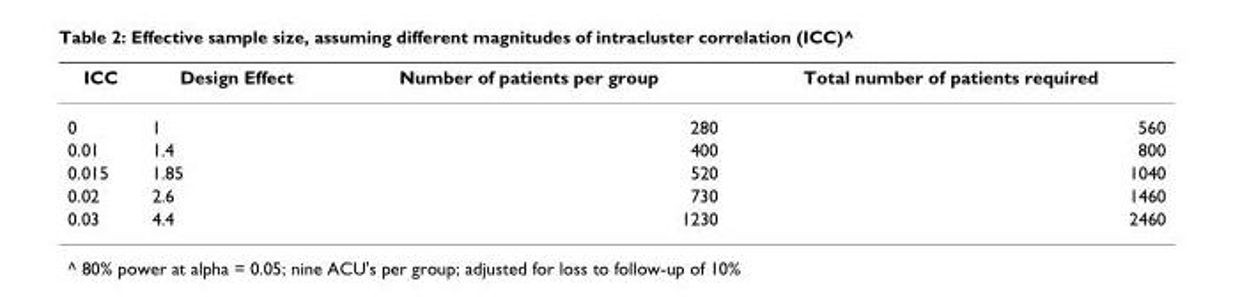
<table><thead><tr><td>ICC</td><td>Design Effect</td><td>Number of patients per group</td><td>Total number of patients required</td></tr></thead><tbody><tr><td>0</td><td>1</td><td>280</td><td>560</td></tr><tr><td>0.01</td><td>1.4</td><td>400</td><td>800</td></tr><tr><td>0.015</td><td>1.85</td><td>520</td><td>1040</td></tr><tr><td>0.02</td><td>2.6</td><td>730</td><td>1460</td></tr><tr><td>0.03</td><td>4.4</td><td>1230</td><td>2460</td></tr></tbody></table>